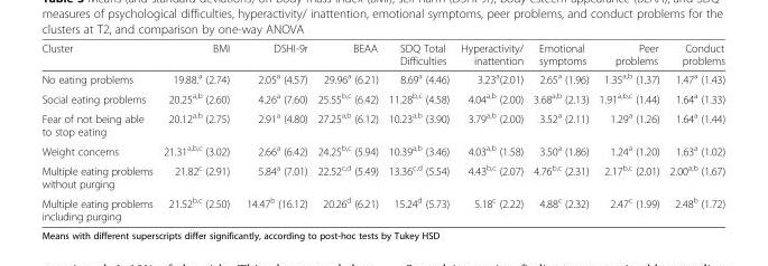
<table><thead><tr><td>Cluster</td><td>BMI</td><td>DSHI-9r</td><td>BEAA</td><td>SDQ Total Difficulties</td><td>Hyperactivity/ inattention</td><td>Emotional symptoms</td><td>Peer problems</td><td>Conduct problems</td></tr></thead><tbody><tr><td>No eating problems</td><td>19.88.<sup>a</sup> (2.74)</td><td>2.05<sup>a</sup> (4.57)</td><td>29.96<sup>a</sup> (6.21)</td><td>8.69<sup>a</sup> (4.46)</td><td>3.23<sup>a</sup>(2.01)</td><td>2.65<sup>a</sup> (1.96)</td><td>1.35<sup>a,b</sup> (1.37)</td><td>1.47<sup>a</sup> (1.43)</td></tr><tr><td>Social eating problems</td><td>20.25<sup>a,b</sup> (2.60)</td><td>4.26<sup>a</sup> (7.60)</td><td>25.55<sup>b,c</sup> (6.42)</td><td>11.28<sup>b,c</sup> (4.58)</td><td>4.04<sup>a,b</sup> (2.00)</td><td>3.68<sup>a,b</sup> (2.13)</td><td>1.91<sup>a,b,c</sup> (1.44)</td><td>1.64<sup>a</sup> (1.33)</td></tr><tr><td>Fear of not being able to stop eating</td><td>20.12<sup>a,b</sup> (2.75)</td><td>2.91<sup>a</sup> (4.80)</td><td>27.25<sup>a,b</sup> (6.12)</td><td>10.23<sup>a,b</sup> (3.90)</td><td>3.79<sup>a,b</sup> (2.00)</td><td>3.52<sup>a</sup> (2.11)</td><td>1.29<sup>a</sup> (1.26)</td><td>1.64<sup>a</sup> (1.44)</td></tr><tr><td>Weight concerns</td><td>21.31<sup>a,b,c</sup> (3.02)</td><td>2.66<sup>a</sup> (6.42)</td><td>24.25<sup>b,c</sup> (5.94)</td><td>10.39<sup>a,b</sup> (3.46)</td><td>4.03<sup>a,b</sup> (1.58)</td><td>3.50<sup>a</sup> (1.86)</td><td>1.24<sup>a</sup> (1.20)</td><td>1.63<sup>a</sup> (1.02)</td></tr><tr><td>Multiple eating problems without purging</td><td>21.82<sup>c</sup> (2.91)</td><td>5.84<sup>a</sup> (7.01)</td><td>22.52<sup>c,d</sup> (5.49)</td><td>13.36<sup>c,d</sup> (5.54)</td><td>4.43<sup>b,c</sup> (2.07)</td><td>4.76<sup>b,c</sup> (2.31)</td><td>2.17<sup>b,c</sup> (2.01)</td><td>2.00<sup>a,b</sup> (1.67)</td></tr><tr><td>Multiple eating problems including purging</td><td>21.52<sup>b,c</sup> (2.50)</td><td>14.47<sup>b</sup> (16.12)</td><td>20.26<sup>d</sup> (6.21)</td><td>15.24<sup>d</sup> (5.73)</td><td>5.18<sup>c</sup> (2.22)</td><td>4.88<sup>c</sup> (2.32)</td><td>2.47<sup>c</sup> (1.99)</td><td>2.48<sup>b</sup> (1.72)</td></tr></tbody></table>